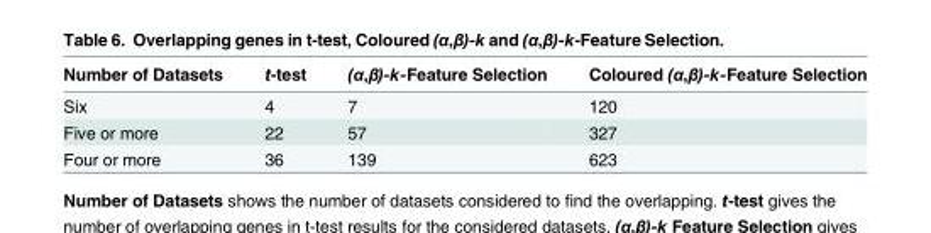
<table><thead><tr><td>Number of Datasets</td><td>t-test</td><td>(α,β)-k-Feature Selection</td><td>Coloured (α,β)-k-Feature Selection</td></tr></thead><tbody><tr><td>Six</td><td>4</td><td>7</td><td>120</td></tr><tr><td>Five or more</td><td>22</td><td>57</td><td>327</td></tr><tr><td>Four or more</td><td>36</td><td>139</td><td>623</td></tr></tbody></table>